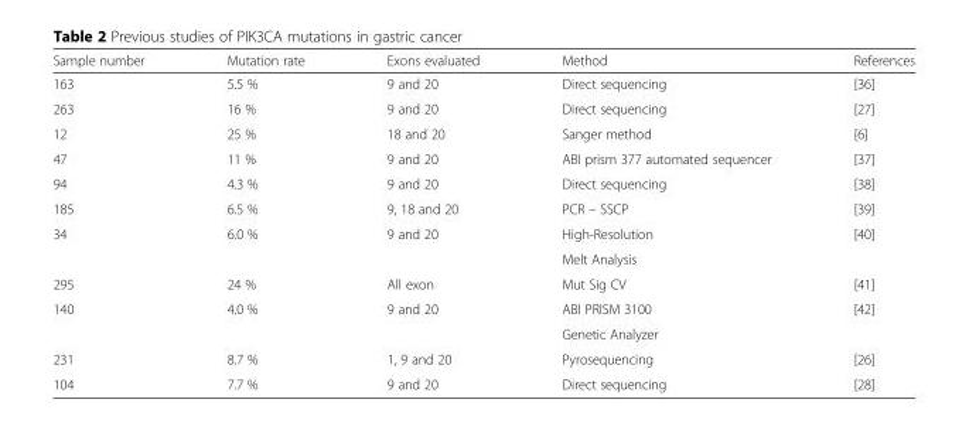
<table><thead><tr><td>Sample number</td><td>Mutation rate</td><td>Exons evaluated</td><td>Method</td><td>References</td></tr></thead><tbody><tr><td>163</td><td>5.5 %</td><td>9 and 20</td><td>Direct sequencing</td><td>[36]</td></tr><tr><td>263</td><td>16 %</td><td>9 and 20</td><td>Direct sequencing</td><td>[27]</td></tr><tr><td>12</td><td>25 %</td><td>18 and 20</td><td>Sanger method</td><td>[6]</td></tr><tr><td>47</td><td>11 %</td><td>9 and 20</td><td>ABI prism 377 automated sequencer</td><td>[37]</td></tr><tr><td>94</td><td>4.3 %</td><td>9 and 20</td><td>Direct sequencing</td><td>[38]</td></tr><tr><td>185</td><td>6.5 %</td><td>9, 18 and 20</td><td>PCR – SSCP</td><td>[39]</td></tr><tr><td rowspan="2">34</td><td rowspan="2">6.0 %</td><td rowspan="2">9 and 20</td><td>High-Resolution</td><td rowspan="2">[40]</td></tr><tr><td>Melt Analysis</td></tr><tr><td>295</td><td>24 %</td><td>All exon</td><td>Mut Sig CV</td><td>[41]</td></tr><tr><td rowspan="2">140</td><td rowspan="2">4.0 %</td><td rowspan="2">9 and 20</td><td>ABI PRISM 3100</td><td rowspan="2">[42]</td></tr><tr><td>Genetic Analyzer</td></tr><tr><td>231</td><td>8.7 %</td><td>1, 9 and 20</td><td>Pyrosequencing</td><td>[26]</td></tr><tr><td>104</td><td>7.7 %</td><td>9 and 20</td><td>Direct sequencing</td><td>[28]</td></tr></tbody></table>